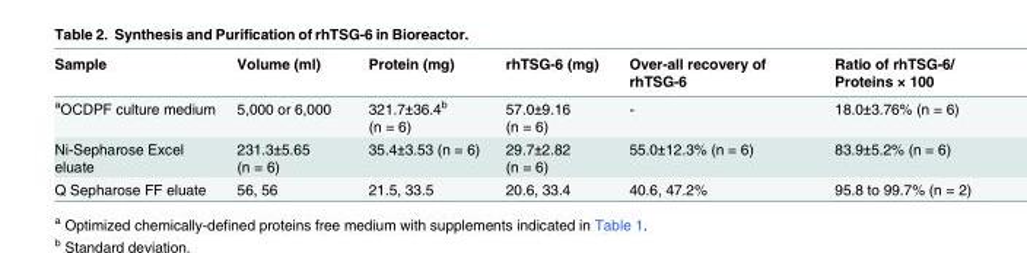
<table><thead><tr><td>Sample</td><td>Volume (ml)</td><td>Protein (mg)</td><td>rhTSG-6 (mg)</td><td>Over-all recovery of rhTSG-6</td><td>Ratio of rhTSG-6/ Proteins × 100</td></tr></thead><tbody><tr><td><sup>a</sup>OCDPF culture medium</td><td>5,000 or 6,000</td><td>321.7±36.4<sup>b</sup> (n = 6)</td><td>57.0±9.16 (n = 6)</td><td>-</td><td>18.0±3.76% (n = 6)</td></tr><tr><td>Ni-Sepharose Excel eluate</td><td>231.3±5.65 (n = 6)</td><td>35.4±3.53 (n = 6)</td><td>29.7±2.82 (n = 6)</td><td>55.0±12.3% (n = 6)</td><td>83.9±5.2% (n = 6)</td></tr><tr><td>Q Sepharose FF eluate</td><td>56, 56</td><td>21.5, 33.5</td><td>20.6, 33.4</td><td>40.6, 47.2%</td><td>95.8 to 99.7% (n = 2)</td></tr></tbody></table>